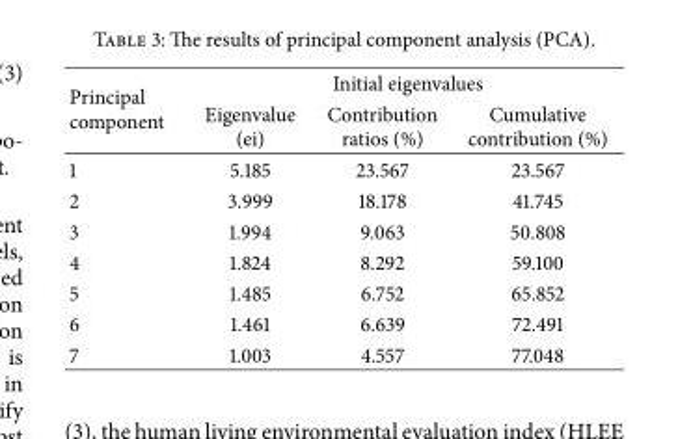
<table><thead><tr><td rowspan="2">Principal component</td><td colspan="3">Initial eigenvalues</td></tr><tr><td>Eigenvalue (ei)</td><td>Contribution ratios (%)</td><td>Cumulative contribution (%)</td></tr></thead><tbody><tr><td>1</td><td>5.185</td><td>23.567</td><td>23.567</td></tr><tr><td>2</td><td>3.999</td><td>18.178</td><td>41.745</td></tr><tr><td>3</td><td>1.994</td><td>9.063</td><td>50.808</td></tr><tr><td>4</td><td>1.824</td><td>8.292</td><td>59.100</td></tr><tr><td>5</td><td>1.485</td><td>6.752</td><td>65.852</td></tr><tr><td>6</td><td>1.461</td><td>6.639</td><td>72.491</td></tr><tr><td>7</td><td>1.003</td><td>4.557</td><td>77.048</td></tr></tbody></table>